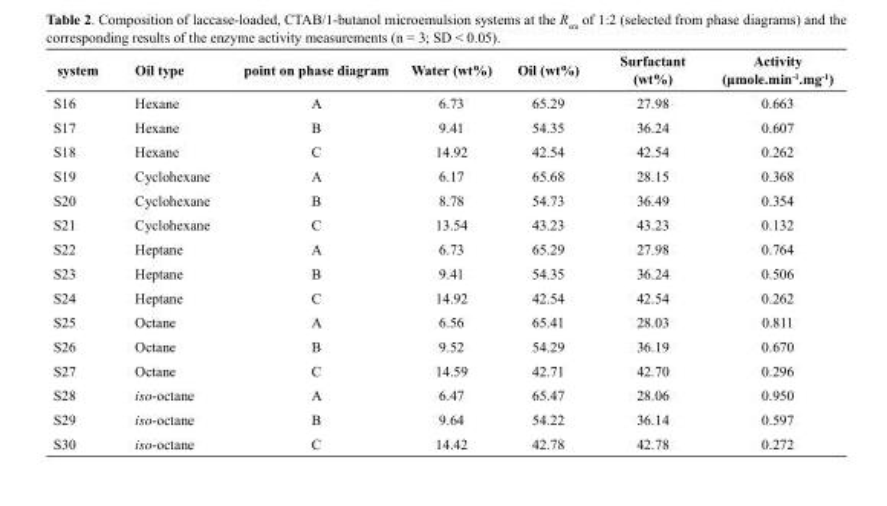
<table><thead><tr><td>Activity (μmole.min<sup>-1</sup>.mg<sup>-1</sup>)</td><td>Surfactant (wt%)</td><td>Oil (wt%)</td><td>Water (wt%)</td><td>point on phase diagram</td><td>Oil type</td><td>system</td></tr></thead><tbody><tr><td>0.663</td><td>27.98</td><td>65.29</td><td>6.73</td><td>A</td><td>Hexane</td><td>S16</td></tr><tr><td>0.607</td><td>36.24</td><td>54.35</td><td>9.41</td><td>B</td><td>Hexane</td><td>S17</td></tr><tr><td>0.262</td><td>42.54</td><td>42.54</td><td>14.92</td><td>C</td><td>Hexane</td><td>S18</td></tr><tr><td>0.368</td><td>28.15</td><td>65.68</td><td>6.17</td><td>A</td><td>Cyclohexane</td><td>S19</td></tr><tr><td>0.354</td><td>36.49</td><td>54.73</td><td>8.78</td><td>B</td><td>Cyclohexane</td><td>S20</td></tr><tr><td>0.132</td><td>43.23</td><td>43.23</td><td>13.54</td><td>C</td><td>Cyclohexane</td><td>S21</td></tr><tr><td>0.764</td><td>27.98</td><td>65.29</td><td>6.73</td><td>A</td><td>Heptane</td><td>S22</td></tr><tr><td>0.506</td><td>36.24</td><td>54.35</td><td>9.41</td><td>B</td><td>Heptane</td><td>S23</td></tr><tr><td>0.262</td><td>42.54</td><td>42.54</td><td>14.92</td><td>C</td><td>Heptane</td><td>S24</td></tr><tr><td>0.811</td><td>28.03</td><td>65.41</td><td>6.56</td><td>A</td><td>Octane</td><td>S25</td></tr><tr><td>0.670</td><td>36.19</td><td>54.29</td><td>9.52</td><td>B</td><td>Octane</td><td>S26</td></tr><tr><td>0.296</td><td>42.70</td><td>42.71</td><td>14.59</td><td>C</td><td>Octane</td><td>S27</td></tr><tr><td>0.950</td><td>28.06</td><td>65.47</td><td>6.47</td><td>A</td><td>iso-octane</td><td>S28</td></tr><tr><td>0.597</td><td>36.14</td><td>54.22</td><td>9.64</td><td>B</td><td>iso-octane</td><td>S29</td></tr><tr><td>0.272</td><td>42.78</td><td>42.78</td><td>14.42</td><td>C</td><td>iso-octane</td><td>S30</td></tr></tbody></table>